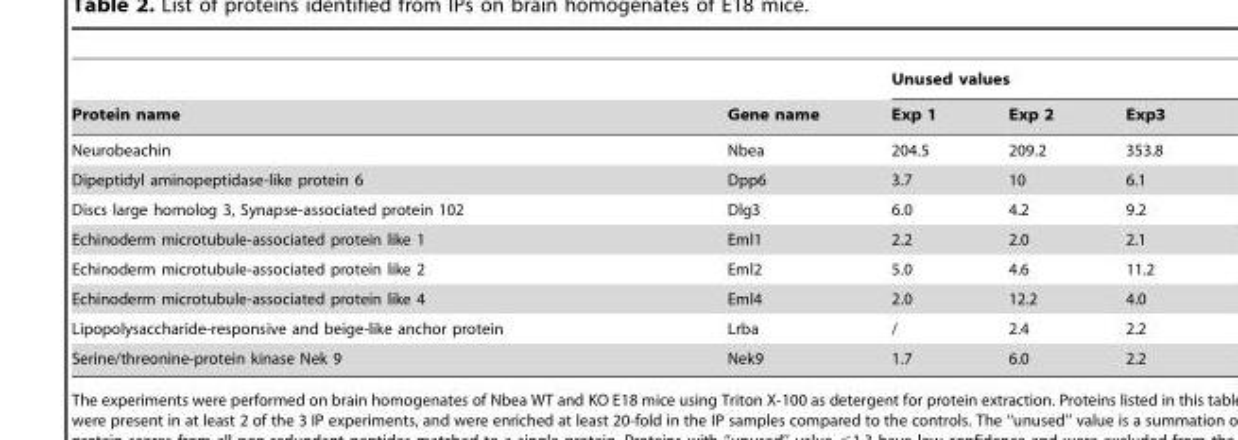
<table><thead><tr><td rowspan="2">Protein name</td><td rowspan="2">Gene name</td><td colspan="3">Unused values</td></tr><tr><td>Exp 1</td><td>Exp 2</td><td>Exp3</td></tr></thead><tbody><tr><td>Neurobeachin</td><td>Nbea</td><td>204.5</td><td>209.2</td><td>353.8</td></tr><tr><td>Dipeptidyl aminopeptidase-like protein 6</td><td>Dpp6</td><td>3.7</td><td>10</td><td>6.1</td></tr><tr><td>Discs large homolog 3, Synapse-associated protein 102</td><td>Dlg3</td><td>6.0</td><td>4.2</td><td>9.2</td></tr><tr><td>Echinoderm microtubule-associated protein like 1</td><td>Eml1</td><td>2.2</td><td>2.0</td><td>2.1</td></tr><tr><td>Echinoderm microtubule-associated protein like 2</td><td>Eml2</td><td>5.0</td><td>4.6</td><td>11.2</td></tr><tr><td>Echinoderm microtubule-associated protein like 4</td><td>Eml4</td><td>2.0</td><td>12.2</td><td>4.0</td></tr><tr><td>Lipopolysaccharide-responsive and beige-like anchor protein</td><td>Lrba</td><td>/</td><td>2.4</td><td>2.2</td></tr><tr><td>Serine/threonine-protein kinase Nek 9</td><td>Nek9</td><td>1.7</td><td>6.0</td><td>2.2</td></tr></tbody></table>